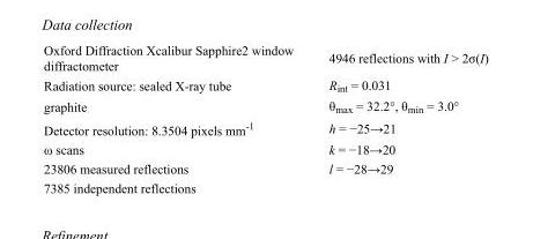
<table><tbody><tr><td>Oxford Diffraction Xcalibur Sapphire2 window diffractometer</td><td>4946 reflections with I &gt; 2σ(I)</td></tr><tr><td>Radiation source: sealed X-ray tube</td><td>R<sub>int</sub> = 0.031</td></tr><tr><td>graphite</td><td>θ<sub>max</sub> = 32.2°, θ<sub>min</sub> = 3.0°</td></tr><tr><td>Detector resolution: 8.3504 pixels mm<sup>-1</sup></td><td>h = −25→21</td></tr><tr><td>ω scans</td><td>k = −18→20</td></tr><tr><td>23806 measured reflections</td><td>l = −28→29</td></tr><tr><td>7385 independent reflections</td><td></td></tr></tbody></table>